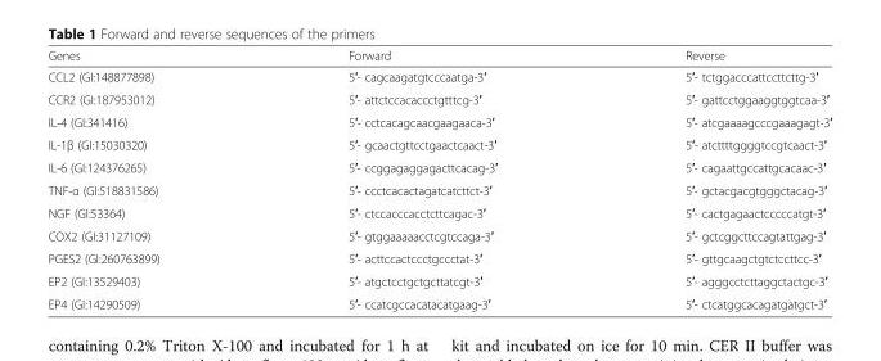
<table><thead><tr><td>Genes</td><td>Forward</td><td>Reverse</td></tr></thead><tbody><tr><td>CCL2 (GI:148877898)</td><td>5′- cagcaagatgtcccaatga-3′</td><td>5′- tctggacccattccttcttg-3′</td></tr><tr><td>CCR2 (GI:187953012)</td><td>5′- attctccacaccctgtttcg-3′</td><td>5′- gattcctggaaggtggtcaa-3′</td></tr><tr><td>IL-4 (GI:341416)</td><td>5′- cctcacagcaacgaagaaca-3′</td><td>5′- atcgaaaagcccgaaagagt-3′</td></tr><tr><td>IL-1β (GI:15030320)</td><td>5′- gcaactgttcctgaactcaact-3′</td><td>5′- atcttttggggtccgtcaact-3′</td></tr><tr><td>IL-6 (GI:124376265)</td><td>5′- ccggagaggagacttcacag-3′</td><td>5′- cagaattgccattgcacaac-3′</td></tr><tr><td>TNF-α (GI:518831586)</td><td>5′- ccctcacactagatcatcttct-3′</td><td>5′- gctacgacgtgggctacag-3′</td></tr><tr><td>NGF (GI:53364)</td><td>5′- ctccacccacctcttcagac-3′</td><td>5′- cactgagaactcccccatgt-3′</td></tr><tr><td>COX2 (GI:31127109)</td><td>5′- gtggaaaaacctcgtccaga-3′</td><td>5′- gctcggcttccagtattgag-3′</td></tr><tr><td>PGES2 (GI:260763899)</td><td>5′- acttccactccctgccctat-3′</td><td>5′- gttgcaagctgtctccttcc-3′</td></tr><tr><td>EP2 (GI:13529403)</td><td>5′- atgctcctgctgcttatcgt-3′</td><td>5′- agggcctcttaggctactgc-3′</td></tr><tr><td>EP4 (GI:14290509)</td><td>5′- ccatcgccacatacatgaag-3′</td><td>5′- ctcatggcacagatgatgct-3′</td></tr></tbody></table>